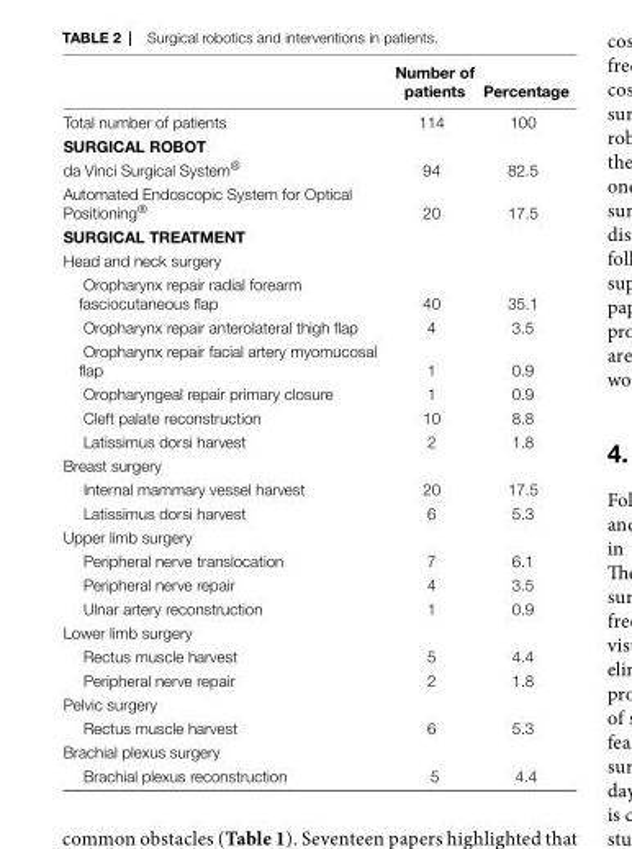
<table><thead><tr><td></td><td>number of patients</td><td>Percentage</td></tr></thead><tbody><tr><td>Total number of patients</td><td>114</td><td>100</td></tr><tr><td colspan="3">SuRgiCaL Robot</td></tr><tr><td>da Vinci Surgical System<sup>®</sup></td><td>94</td><td>82.5</td></tr><tr><td>Automated Endoscopic System for Optical Positioning<sup>®</sup></td><td>20</td><td>17.5</td></tr><tr><td colspan="3">SuRgiCaL tReatMent</td></tr><tr><td colspan="3">Head and neck surgery</td></tr><tr><td>Oropharynx repair radial forearm fasciocutaneous flap</td><td>40</td><td>35.1</td></tr><tr><td>Oropharynx repair anterolateral thigh flap</td><td>4</td><td>3.5</td></tr><tr><td>Oropharynx repair facial artery myomucosal flap</td><td>1</td><td>0.9</td></tr><tr><td>Oropharyngeal repair primary closure</td><td>1</td><td>0.9</td></tr><tr><td>Cleft palate reconstruction</td><td>10</td><td>8.8</td></tr><tr><td>Latissimus dorsi harvest</td><td>2</td><td>1.8</td></tr><tr><td colspan="3">Breast surgery</td></tr><tr><td>Internal mammary vessel harvest</td><td>20</td><td>17.5</td></tr><tr><td>Latissimus dorsi harvest</td><td>6</td><td>5.3</td></tr><tr><td colspan="3">Upper limb surgery</td></tr><tr><td>Peripheral nerve translocation</td><td>7</td><td>6.1</td></tr><tr><td>Peripheral nerve repair</td><td>4</td><td>3.5</td></tr><tr><td>Ulnar artery reconstruction</td><td>1</td><td>0.9</td></tr><tr><td colspan="3">Lower limb surgery</td></tr><tr><td>Rectus muscle harvest</td><td>5</td><td>4.4</td></tr><tr><td>Peripheral nerve repair</td><td>2</td><td>1.8</td></tr><tr><td colspan="3">Pelvic surgery</td></tr><tr><td>Rectus muscle harvest</td><td>6</td><td>5.3</td></tr><tr><td colspan="3">Brachial plexus surgery</td></tr><tr><td>Brachial plexus reconstruction</td><td>5</td><td>4.4</td></tr></tbody></table>